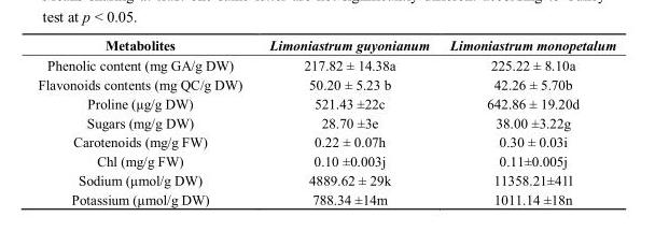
<table><thead><tr><td>Metabolites</td><td>Limoniastrum guyonianum</td><td>Limoniastrum monopetalum</td></tr></thead><tbody><tr><td>Phenolic content (mg GA/g DW)</td><td>217.82 ± 14.38a</td><td>225.22 ± 8.10a</td></tr><tr><td>Flavonoids contents (mg QC/g DW)</td><td>50.20 ± 5.23 b</td><td>42.26 ± 5.70b</td></tr><tr><td>Proline (μg/g DW)</td><td>521.43 ±22c</td><td>642.86 ± 19.20d</td></tr><tr><td>Sugars (mg/g DW)</td><td>28.70 ±3e</td><td>38.00 ±3.22g</td></tr><tr><td>Carotenoids (mg/g FW)</td><td>0.22 ± 0.07h</td><td>0.30 ± 0.03i</td></tr><tr><td>Chl (mg/g FW)</td><td>0.10 ±0.003j</td><td>0.11±0.005j</td></tr><tr><td>Sodium (μmol/g DW)</td><td>4889.62 ± 29k</td><td>11358.21±41l</td></tr><tr><td>Potassium (μmol/g DW)</td><td>788.34 ±14m</td><td>1011.14 ±18n</td></tr></tbody></table>